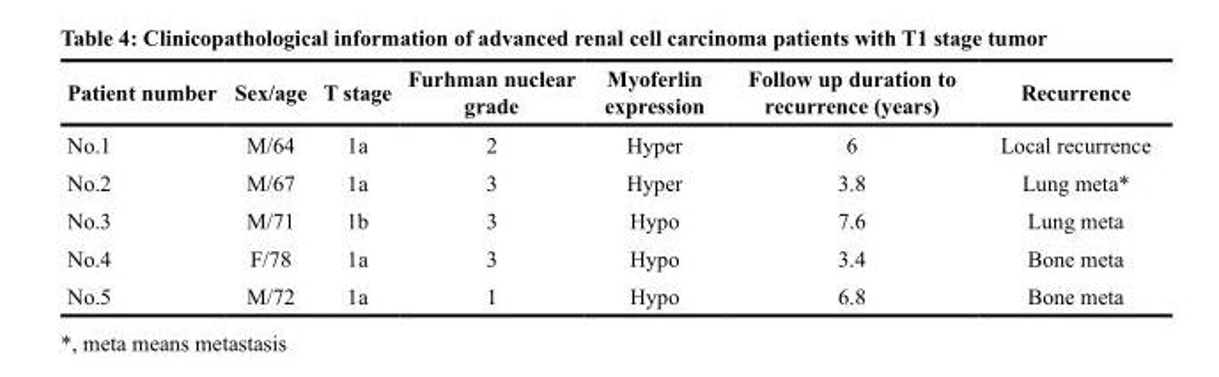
<table><thead><tr><td>Patient number</td><td>Sex/age</td><td>T stage</td><td>Furhman nuclear grade</td><td>Myoferlin expression</td><td>Follow up duration to recurrence (years)</td><td>Recurrence</td></tr></thead><tbody><tr><td>No.1</td><td>M/64</td><td>1a</td><td>2</td><td>Hyper</td><td>6</td><td>Local recurrence</td></tr><tr><td>No.2</td><td>M/67</td><td>1a</td><td>3</td><td>Hyper</td><td>3.8</td><td>Lung meta*</td></tr><tr><td>No.3</td><td>M/71</td><td>1b</td><td>3</td><td>Hypo</td><td>7.6</td><td>Lung meta</td></tr><tr><td>No.4</td><td>F/78</td><td>1a</td><td>3</td><td>Hypo</td><td>3.4</td><td>Bone meta</td></tr><tr><td>No.5</td><td>M/72</td><td>1a</td><td>1</td><td>Hypo</td><td>6.8</td><td>Bone meta</td></tr></tbody></table>